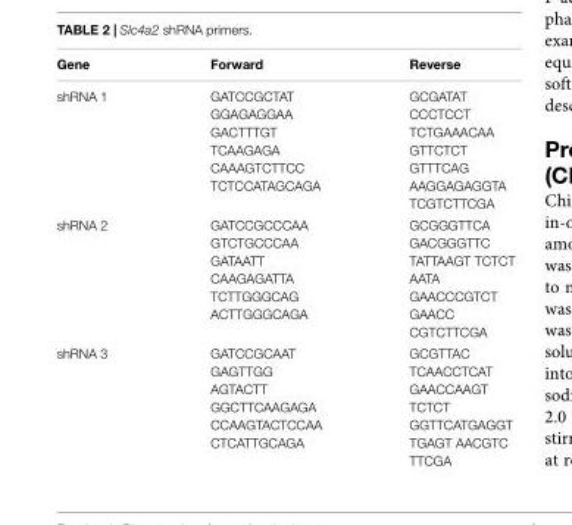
<table><thead><tr><td>Gene</td><td>Forward</td><td>Reverse</td></tr></thead><tbody><tr><td>shRNA 1</td><td>GATCCGCTAT GGAGAGGAA GACTTTGT TCAAGAGA CAAAGTCTTCC TCTCCATAGCAGA</td><td>GCGATAT CCCTCCT TCTGAAACAA GTTCTCT GTTTCAG AAGGAGAGGTA TCGTCTTCGA</td></tr><tr><td>shRNA 2</td><td>GATCCGCCCAA GTCTGCCCAA GATAATT CAAGAGATTA TCTTGGGCAG ACTTGGGCAGA</td><td>GCGGGTTCA GACGGGTTC TATTAAGT TCTCT AATA GAACCCGTCT GAACC CGTCTTCGA</td></tr><tr><td>shRNA 3</td><td>GATCCGCAAT GAGTTGG AGTACTT GGCTTCAAGAGA CCAAGTACTCCAA CTCATTGCAGA</td><td>GCGTTAC TCAACCTCAT GAACCAAGT TCTCT GGTTCATGAGGT TGAGT AACGTC TTCGA</td></tr></tbody></table>